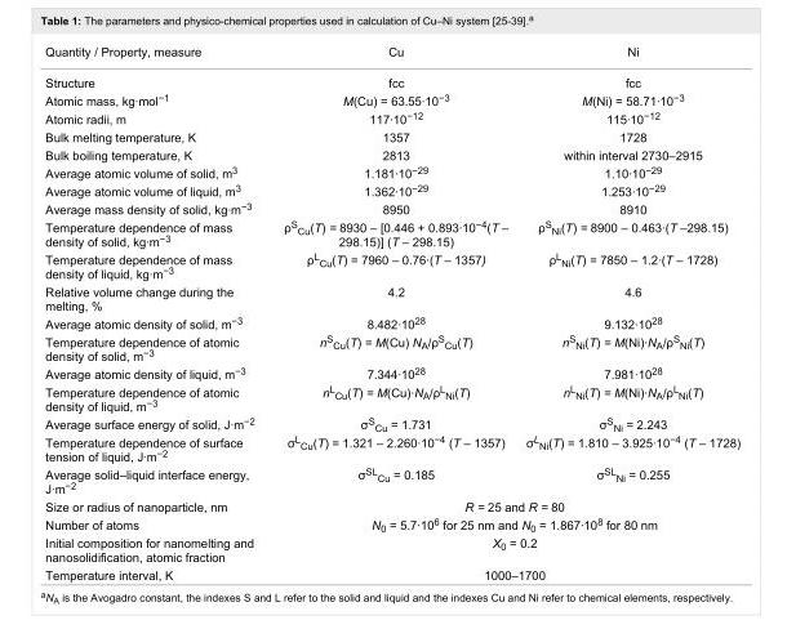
<table><tbody><tr><td>Quantity / Property, measure</td><td>Cu</td><td>Ni</td></tr><tr><td>Structure</td><td>fcc</td><td>fcc</td></tr><tr><td>Atomic mass, kg·mol<sup>−1</sup></td><td>M(Cu) = 63.55·10<sup>−3</sup></td><td>M(Ni) = 58.71·10<sup>−3</sup></td></tr><tr><td>Atomic radii, m</td><td>117·10<sup>−12</sup></td><td>115·10<sup>−12</sup></td></tr><tr><td>Bulk melting temperature, K</td><td>1357</td><td>1728</td></tr><tr><td>Bulk boiling temperature, K</td><td>2813</td><td>within interval 2730–2915</td></tr><tr><td>Average atomic volume of solid, m<sup>3</sup></td><td>1.181·10<sup>−29</sup></td><td>1.10·10<sup>−29</sup></td></tr><tr><td>Average atomic volume of liquid, m<sup>3</sup></td><td>1.362·10<sup>−29</sup></td><td>1.253·10<sup>−29</sup></td></tr><tr><td>Average mass density of solid, kg·m<sup>−3</sup></td><td>8950</td><td>8910</td></tr><tr><td>Temperature dependence of mass density of solid, kg·m<sup>−3</sup></td><td>ρ<sup>S</sup><sub>Cu</sub>(T) = 8930 – [0.446 + 0.893·10<sup>−4</sup>(T – 298.15)] (T – 298.15)</td><td>ρ<sup>S</sup><sub>Ni</sub>(T) = 8900 – 0.463·(T –298.15)</td></tr><tr><td>Temperature dependence of mass density of liquid, kg·m<sup>−3</sup></td><td>ρ<sup>L</sup><sub>Cu</sub>(T) = 7960 – 0.76·(T – 1357)</td><td>ρ<sup>L</sup><sub>Ni</sub>(T) = 7850 – 1.2·(T – 1728)</td></tr><tr><td>Relative volume change during the melting, %</td><td>4.2</td><td>4.6</td></tr><tr><td>Average atomic density of solid, m<sup>−3</sup></td><td>8.482·10<sup>28</sup></td><td>9.132·10<sup>28</sup></td></tr><tr><td>Temperature dependence of atomic density of solid, m<sup>−3</sup></td><td>n<sup>S</sup><sub>Cu</sub>(T) = M(Cu) N<sub>A</sub>/ρ<sup>S</sup><sub>Cu</sub>(T)</td><td>n<sup>S</sup><sub>Ni</sub>(T) = M(Ni)·N<sub>A</sub>/ρ<sup>S</sup><sub>Ni</sub>(T)</td></tr><tr><td>Average atomic density of liquid, m<sup>−3</sup></td><td>7.344·10<sup>28</sup></td><td>7.981·10<sup>28</sup></td></tr><tr><td>Temperature dependence of atomic density of liquid, m<sup>−3</sup></td><td>n<sup>L</sup><sub>Cu</sub>(T) = M(Cu)·N<sub>A</sub>/ρ<sup>L</sup><sub>Ni</sub>(T)</td><td>n<sup>L</sup><sub>Ni</sub>(T) = M(Ni)·N<sub>A</sub>/ρ<sup>L</sup><sub>Ni</sub>(T)</td></tr><tr><td>Average surface energy of solid, J·m<sup>−2</sup></td><td>σ<sup>S</sup><sub>Cu</sub> = 1.731</td><td>σ<sup>S</sup><sub>Ni</sub> = 2.243</td></tr><tr><td>Temperature dependence of surface tension of liquid, J·m<sup>−2</sup></td><td>σ<sup>L</sup><sub>Cu</sub>(T) = 1.321 – 2.260·10<sup>−4</sup> (T – 1357)</td><td>σ<sup>L</sup><sub>Ni</sub>(T) = 1.810 – 3.925·10<sup>−4</sup> (T – 1728)</td></tr><tr><td>Average solid–liquid interface energy, J·m<sup>−2</sup></td><td>σ<sup>SL</sup><sub>Cu</sub> = 0.185</td><td>σ<sup>SL</sup><sub>Ni</sub> = 0.255</td></tr><tr><td>Size or radius of nanoparticle, nm</td><td colspan="2">R = 25 and R = 80</td></tr><tr><td>Number of atoms</td><td colspan="2">N<sub>0</sub> = 5.7·10<sup>6</sup> for 25 nm and N<sub>0</sub> = 1.867·10<sup>8</sup> for 80 nm</td></tr><tr><td>Initial composition for nanomelting and nanosolidification, atomic fraction</td><td colspan="2">X<sub>0</sub> = 0.2</td></tr><tr><td>Temperature interval, K</td><td colspan="2">1000–1700</td></tr></tbody></table>